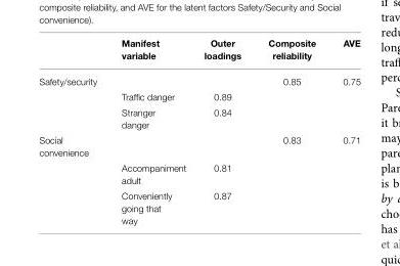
<table><thead><tr><td></td><td>Manifest variable</td><td>Outer loadings</td><td>Composite reliability</td><td>AVE</td></tr></thead><tbody><tr><td rowspan="3">Safety/security</td><td></td><td></td><td>0.85</td><td>0.75</td></tr><tr><td>Traffic danger</td><td>0.89</td><td></td><td></td></tr><tr><td>Stranger danger</td><td>0.84</td><td></td><td></td></tr><tr><td rowspan="3">Social convenience</td><td></td><td></td><td>0.83</td><td>0.71</td></tr><tr><td>Accompaniment adult</td><td>0.81</td><td></td><td></td></tr><tr><td>Conveniently going that way</td><td>0.87</td><td></td><td></td></tr></tbody></table>